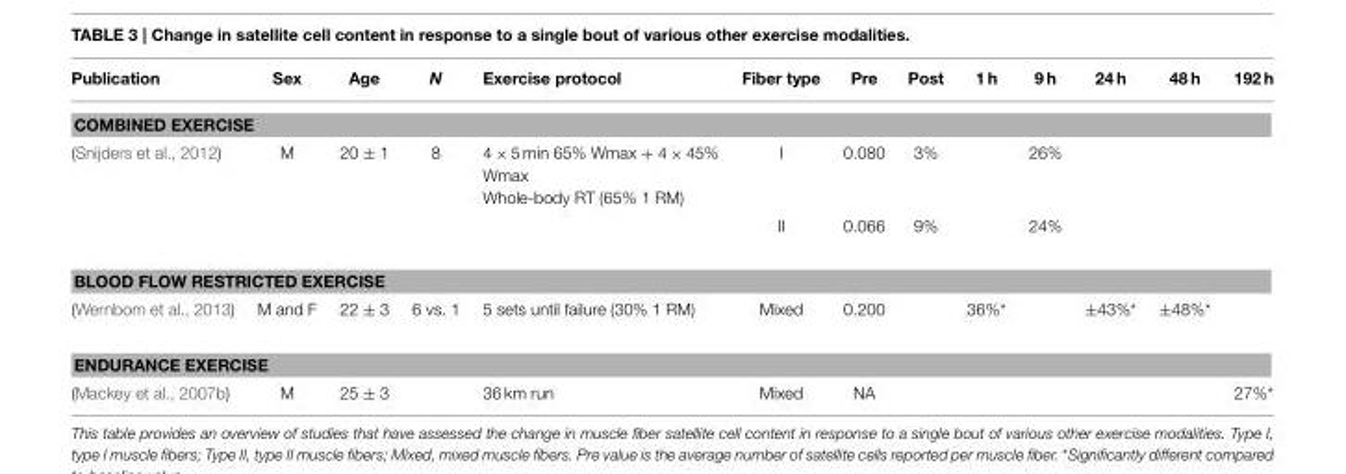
<table><thead><tr><td>Publication</td><td>Sex</td><td>Age</td><td>N</td><td>Exercise protocol</td><td>Fiber type</td><td>Pre</td><td>Post</td><td>1 h</td><td>9 h</td><td>24 h</td><td>48 h</td><td>192 h</td></tr></thead><tbody><tr><td colspan="13">COMBINED EXERCISE</td></tr><tr><td rowspan="2">(Snijders et al., 2012)</td><td>M</td><td>20 ± 1</td><td>8</td><td>4 × 5 min 65% Wmax + 4 × 45% Wmax Whole-body RT (65% 1 RM)</td><td>I</td><td>0.080</td><td>3%</td><td></td><td>26%</td><td></td><td></td><td></td></tr><tr><td></td><td></td><td></td><td></td><td>II</td><td>0.066</td><td>9%</td><td></td><td>24%</td><td></td><td></td><td></td></tr><tr><td colspan="13">BLOOD FLOW RESTRICTED EXERCISE</td></tr><tr><td>(Wernbom et al., 2013)</td><td>M and F</td><td>22 ± 3</td><td>6 vs. 1</td><td>5 sets until failure (30% 1 RM)</td><td>Mixed</td><td>0.200</td><td></td><td>36%*</td><td></td><td>±43%*</td><td>±48%*</td><td></td></tr><tr><td colspan="13">ENDURANCE EXERCISE</td></tr><tr><td>(Mackey et al., 2007b)</td><td>M</td><td>25 ± 3</td><td></td><td>36 km run</td><td>Mixed</td><td>NA</td><td></td><td></td><td></td><td></td><td></td><td>27%*</td></tr></tbody></table>